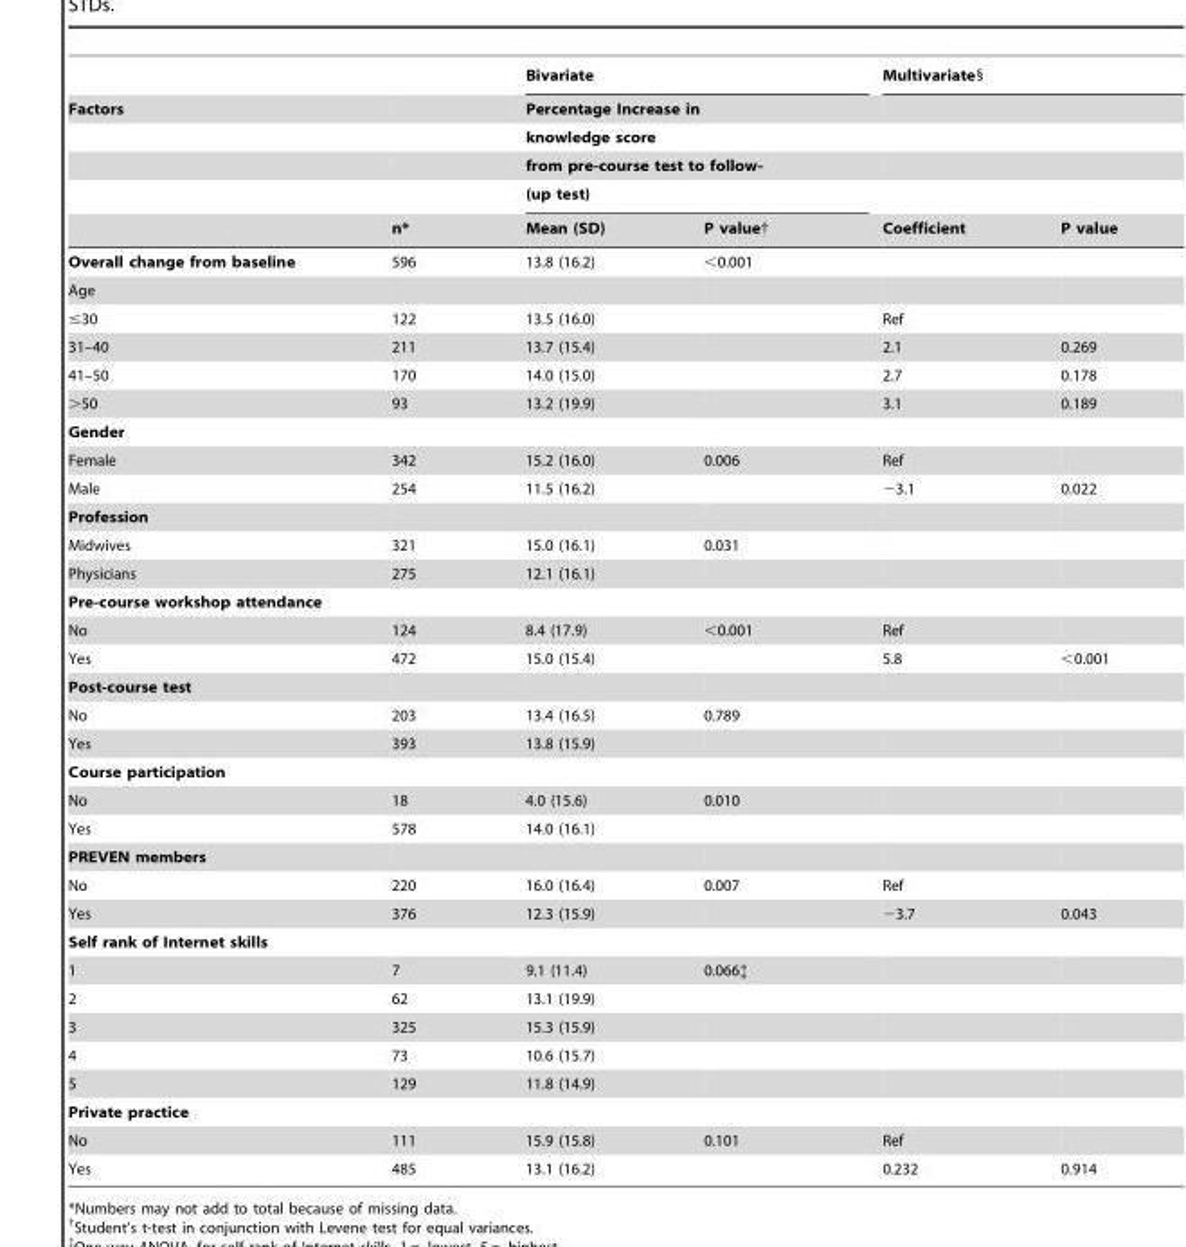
<table><thead><tr><td rowspan="6">Factors</td><td rowspan="6">n*</td><td rowspan="5" colspan="2">Bivariate Percentage Increase in knowledge score from pre-course test to follow- (up test)</td><td colspan="2">Multivariate§</td></tr><tr><td rowspan="5">Coefficient</td><td rowspan="5">P value</td></tr><tr></tr><tr></tr><tr></tr><tr><td>Mean (SD)</td><td>P value†</td></tr></thead><tbody><tr><td>Overall change from baseline</td><td>596</td><td>13.8 (16.2)</td><td>&lt;0.001</td><td></td><td></td></tr><tr><td colspan="6">Age</td></tr><tr><td>≤30</td><td>122</td><td>13.5 (16.0)</td><td></td><td>Ref</td><td></td></tr><tr><td>31–40</td><td>211</td><td>13.7 (15.4)</td><td></td><td>2.1</td><td>0.269</td></tr><tr><td>41–50</td><td>170</td><td>14.0 (15.0)</td><td></td><td>2.7</td><td>0.178</td></tr><tr><td>&gt;50</td><td>93</td><td>13.2 (19.9)</td><td></td><td>3.1</td><td>0.189</td></tr><tr><td colspan="6">Gender</td></tr><tr><td>Female</td><td>342</td><td>15.2 (16.0)</td><td>0.006</td><td>Ref</td><td></td></tr><tr><td>Male</td><td>254</td><td>11.5 (16.2)</td><td></td><td>−3.1</td><td>0.022</td></tr><tr><td colspan="6">Profession</td></tr><tr><td>Midwives</td><td>321</td><td>15.0 (16.1)</td><td>0.031</td><td></td><td></td></tr><tr><td>Physicians</td><td>275</td><td>12.1 (16.1)</td><td></td><td></td><td></td></tr><tr><td colspan="6">Pre-course workshop attendance</td></tr><tr><td>No</td><td>124</td><td>8.4 (17.9)</td><td>&lt;0.001</td><td>Ref</td><td></td></tr><tr><td>Yes</td><td>472</td><td>15.0 (15.4)</td><td></td><td>5.8</td><td>&lt;0.001</td></tr><tr><td colspan="6">Post-course test</td></tr><tr><td>No</td><td>203</td><td>13.4 (16.5)</td><td>0.789</td><td></td><td></td></tr><tr><td>Yes</td><td>393</td><td>13.8 (15.9)</td><td></td><td></td><td></td></tr><tr><td colspan="6">Course participation</td></tr><tr><td>No</td><td>18</td><td>4.0 (15.6)</td><td>0.010</td><td></td><td></td></tr><tr><td>Yes</td><td>578</td><td>14.0 (16.1)</td><td></td><td></td><td></td></tr><tr><td colspan="6">PREVEN members</td></tr><tr><td>No</td><td>220</td><td>16.0 (16.4)</td><td>0.007</td><td>Ref</td><td></td></tr><tr><td>Yes</td><td>376</td><td>12.3 (15.9)</td><td></td><td>−3.7</td><td>0.043</td></tr><tr><td colspan="6">Self rank of Internet skills</td></tr><tr><td>1</td><td>7</td><td>9.1 (11.4)</td><td>0.066‡</td><td></td><td></td></tr><tr><td>2</td><td>62</td><td>13.1 (19.9)</td><td></td><td></td><td></td></tr><tr><td>3</td><td>325</td><td>15.3 (15.9)</td><td></td><td></td><td></td></tr><tr><td>4</td><td>73</td><td>10.6 (15.7)</td><td></td><td></td><td></td></tr><tr><td>5</td><td>129</td><td>11.8 (14.9)</td><td></td><td></td><td></td></tr><tr><td colspan="6">Private practice</td></tr><tr><td>No</td><td>111</td><td>15.9 (15.8)</td><td>0.101</td><td>Ref</td><td></td></tr><tr><td>Yes</td><td>485</td><td>13.1 (16.2)</td><td></td><td>0.232</td><td>0.914</td></tr></tbody></table>